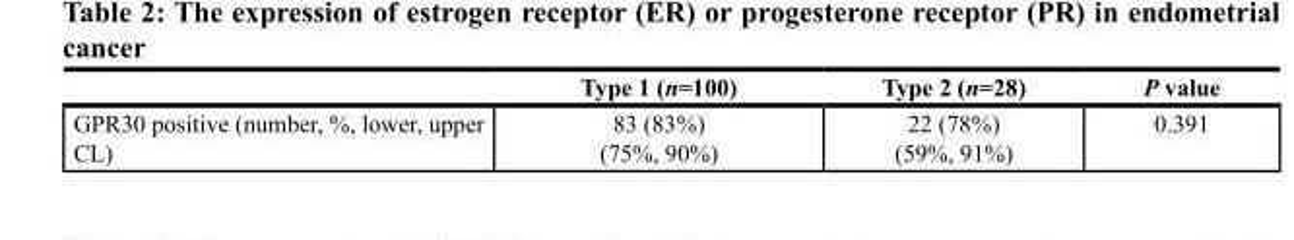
<table><thead><tr><td></td><td>Type 1 (n=100)</td><td>Type 2 (n=28)</td><td>P value</td></tr></thead><tbody><tr><td>GPR30 positive (number, %, lower, upper CL)</td><td>83 (83%) (75%, 90%)</td><td>22 (78%) (59%, 91%)</td><td>0.391</td></tr></tbody></table>